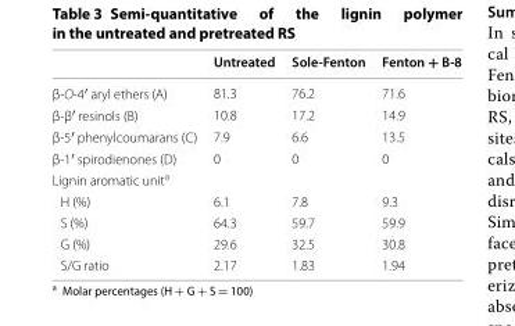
<table><thead><tr><td></td><td>Untreated</td><td>Sole‑Fenton</td><td>Fenton + B‑8</td></tr></thead><tbody><tr><td>β-O-4′ aryl ethers (A)</td><td>81.3</td><td>76.2</td><td>71.6</td></tr><tr><td>β-β′ resinols (B)</td><td>10.8</td><td>17.2</td><td>14.9</td></tr><tr><td>β-5′ phenylcoumarans (C)</td><td>7.9</td><td>6.6</td><td>13.5</td></tr><tr><td>β-1′ spirodienones (D)</td><td>0</td><td>0</td><td>0</td></tr><tr><td colspan="4">Lignin aromatic unit<sup>a</sup></td></tr><tr><td>H (%)</td><td>6.1</td><td>7.8</td><td>9.3</td></tr><tr><td>S (%)</td><td>64.3</td><td>59.7</td><td>59.9</td></tr><tr><td>G (%)</td><td>29.6</td><td>32.5</td><td>30.8</td></tr><tr><td>S/G ratio</td><td>2.17</td><td>1.83</td><td>1.94</td></tr></tbody></table>